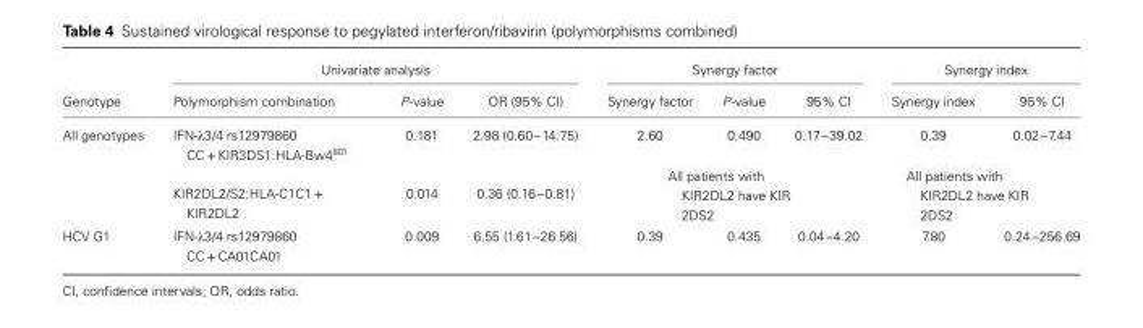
<table><thead><tr><td rowspan="2">Genotype</td><td colspan="3">Univariate analysis</td><td colspan="3">Synergy factor</td><td colspan="2">Synergy index</td></tr><tr><td>Polymorphism combination</td><td>P-value</td><td>OR (95% CI)</td><td>Synergy factor</td><td>P-value</td><td>95% CI</td><td>Synergy index</td><td>95% CI</td></tr></thead><tbody><tr><td rowspan="2">All genotypes</td><td>IFN-λ3/4 rs12979860 CC + KIR3DS1:HLA-Bw4<sup>801</sup></td><td>0.181</td><td>2.98 (0.60–14.75)</td><td>2.60</td><td>0.490</td><td>0.17–39.02</td><td>0.39</td><td>0.02–7.44</td></tr><tr><td>KIR2DL2/S2:HLA-C1C1 + KIR2DL2</td><td>0.014</td><td>0.36 (0.16–0.81)</td><td colspan="3">All patients with KIR2DL2 have KIR 2DS2</td><td colspan="2">All patients with KIR2DL2 have KIR 2DS2</td></tr><tr><td>HCV G1</td><td>IFN-λ3/4 rs12979860 CC + CA01CA01</td><td>0.009</td><td>6.55 (1.61–26.56)</td><td>0.39</td><td>0.435</td><td>0.04–4.20</td><td>7.80</td><td>0.24–256.69</td></tr></tbody></table>